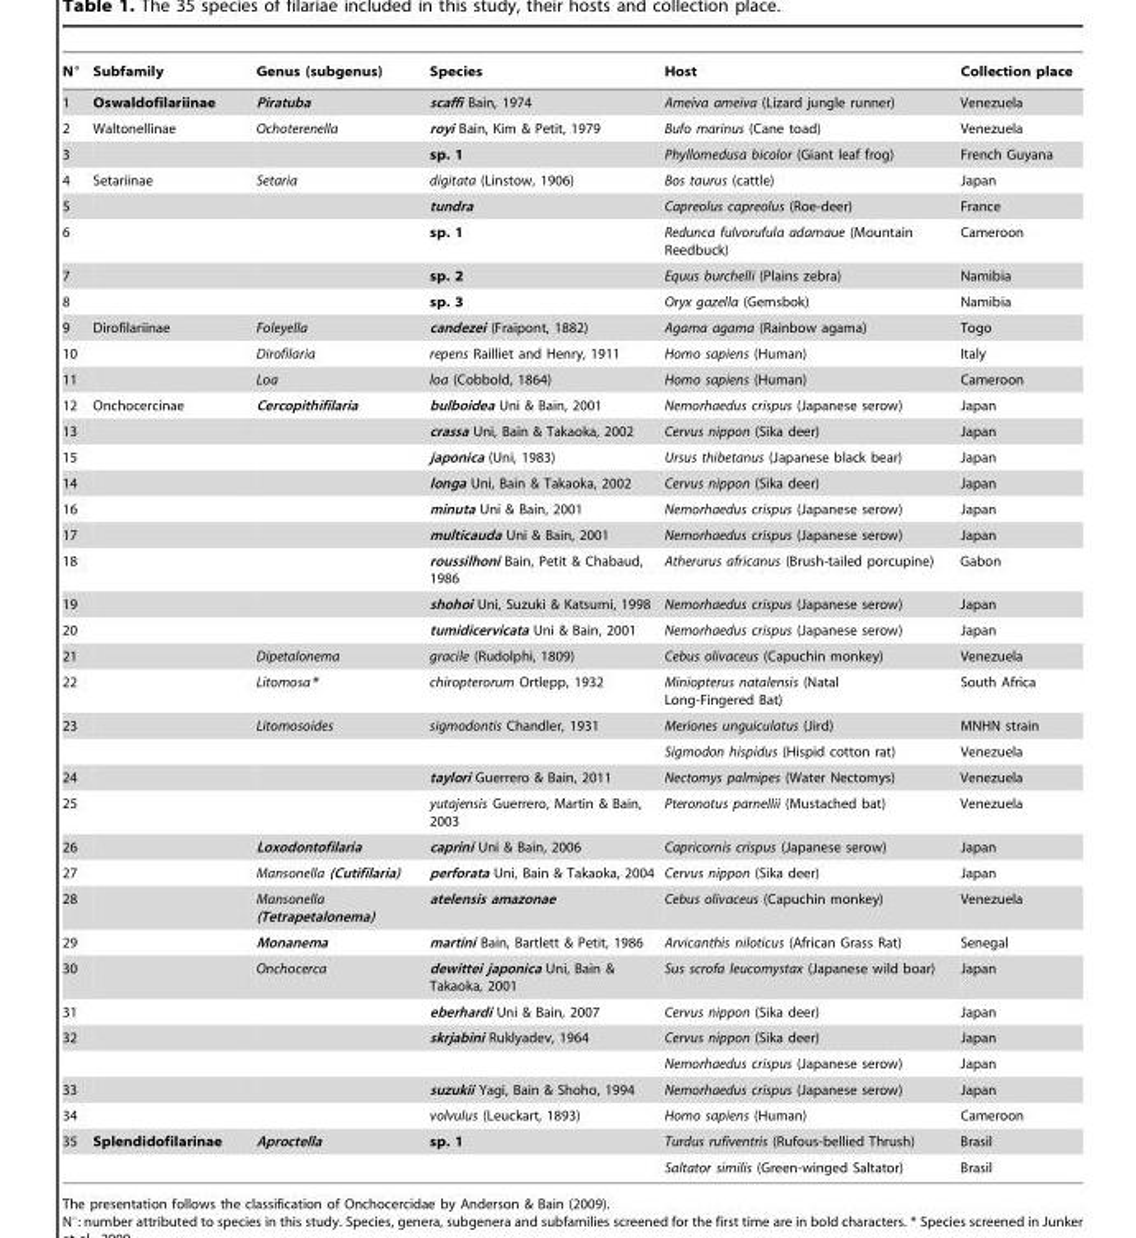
<table><thead><tr><td>N°</td><td>Subfamily</td><td>Genus (subgenus)</td><td>Species</td><td>Host</td><td>Collection place</td></tr></thead><tbody><tr><td>1</td><td>Oswaldofilariinae</td><td>Piratuba</td><td>scaffi Bain, 1974</td><td>Ameiva ameiva (Lizard jungle runner)</td><td>Venezuela</td></tr><tr><td>2</td><td>Waltonellinae</td><td>Ochoterenella</td><td>royi Bain, Kim &amp; Petit, 1979</td><td>Bufo marinus (Cane toad)</td><td>Venezuela</td></tr><tr><td>3</td><td></td><td></td><td>sp. 1</td><td>Phyllomedusa bicolor (Giant leaf frog)</td><td>French Guyana</td></tr><tr><td>4</td><td>Setariinae</td><td>Setaria</td><td>digitata (Linstow, 1906)</td><td>Bos taurus (cattle)</td><td>Japan</td></tr><tr><td>5</td><td></td><td></td><td>tundra</td><td>Capreolus capreolus (Roe-deer)</td><td>France</td></tr><tr><td>6</td><td></td><td></td><td>sp. 1</td><td>Redunca fulvorufula adamaue (Mountain Reedbuck)</td><td>Cameroon</td></tr><tr><td>7</td><td></td><td></td><td>sp. 2</td><td>Equus burchelli (Plains zebra)</td><td>Namibia</td></tr><tr><td>8</td><td></td><td></td><td>sp. 3</td><td>Oryx gazella (Gemsbok)</td><td>Namibia</td></tr><tr><td>9</td><td>Dirofilariinae</td><td>Foleyella</td><td>candezei (Fraipont, 1882)</td><td>Agama agama (Rainbow agama)</td><td>Togo</td></tr><tr><td>10</td><td></td><td>Dirofilaria</td><td>repens Railliet and Henry, 1911</td><td>Homo sapiens (Human)</td><td>Italy</td></tr><tr><td>11</td><td></td><td>Loa</td><td>loa (Cobbold, 1864)</td><td>Homo sapiens (Human)</td><td>Cameroon</td></tr><tr><td>12</td><td>Onchocercinae</td><td>Cercopithifilaria</td><td>bulboidea Uni &amp; Bain, 2001</td><td>Nemorhaedus crispus (Japanese serow)</td><td>Japan</td></tr><tr><td>13</td><td></td><td></td><td>crassa Uni, Bain &amp; Takaoka, 2002</td><td>Cervus nippon (Sika deer)</td><td>Japan</td></tr><tr><td>15</td><td></td><td></td><td>japonica (Uni, 1983)</td><td>Ursus thibetanus (Japanese black bear)</td><td>Japan</td></tr><tr><td>14</td><td></td><td></td><td>longa Uni, Bain &amp; Takaoka, 2002</td><td>Cervus nippon (Sika deer)</td><td>Japan</td></tr><tr><td>16</td><td></td><td></td><td>minuta Uni &amp; Bain, 2001</td><td>Nemorhaedus crispus (Japanese serow)</td><td>Japan</td></tr><tr><td>17</td><td></td><td></td><td>multicauda Uni &amp; Bain, 2001</td><td>Nemorhaedus crispus (Japanese serow)</td><td>Japan</td></tr><tr><td>18</td><td></td><td></td><td>roussilhoni Bain, Petit &amp; Chabaud, 1986</td><td>Atherurus africanus (Brush-tailed porcupine)</td><td>Gabon</td></tr><tr><td>19</td><td></td><td></td><td>shohoi Uni, Suzuki &amp; Katsumi, 1998</td><td>Nemorhaedus crispus (Japanese serow)</td><td>Japan</td></tr><tr><td>20</td><td></td><td></td><td>tumidicervicata Uni &amp; Bain, 2001</td><td>Nemorhaedus crispus (Japanese serow)</td><td>Japan</td></tr><tr><td>21</td><td></td><td>Dipetalonema</td><td>gracile (Rudolphi, 1809)</td><td>Cebus olivaceus (Capuchin monkey)</td><td>Venezuela</td></tr><tr><td>22</td><td></td><td>Litomosa*</td><td>chiropterorum Ortlepp, 1932</td><td>Miniopterus natalensis (Natal Long-Fingered Bat)</td><td>South Africa</td></tr><tr><td rowspan="2">23</td><td></td><td>Litomosoides</td><td>sigmodontis Chandler, 1931</td><td>Meriones unguiculatus (Jird)</td><td>MNHN strain</td></tr><tr><td></td><td></td><td></td><td>Sigmodon hispidus (Hispid cotton rat)</td><td>Venezuela</td></tr><tr><td>24</td><td></td><td></td><td>taylori Guerrero &amp; Bain, 2011</td><td>Nectomys palmipes (Water Nectomys)</td><td>Venezuela</td></tr><tr><td>25</td><td></td><td></td><td>yutajensis Guerrero, Martin &amp; Bain, 2003</td><td>Pteronotus parnellii (Mustached bat)</td><td>Venezuela</td></tr><tr><td>26</td><td></td><td>Loxodontofilaria</td><td>caprini Uni &amp; Bain, 2006</td><td>Capricornis crispus (Japanese serow)</td><td>Japan</td></tr><tr><td>27</td><td></td><td>Mansonella (Cutifilaria)</td><td>perforata Uni, Bain &amp; Takaoka, 2004</td><td>Cervus nippon (Sika deer)</td><td>Japan</td></tr><tr><td>28</td><td></td><td>Mansonella (Tetrapetalonema)</td><td>atelensis amazonae</td><td>Cebus olivaceus (Capuchin monkey)</td><td>Venezuela</td></tr><tr><td>29</td><td></td><td>Monanema</td><td>martini Bain, Bartlett &amp; Petit, 1986</td><td>Arvicanthis niloticus (African Grass Rat)</td><td>Senegal</td></tr><tr><td>30</td><td></td><td>Onchocerca</td><td>dewittei japonica Uni, Bain &amp; Takaoka, 2001</td><td>Sus scrofa leucomystax (Japanese wild boar)</td><td>Japan</td></tr><tr><td>31</td><td></td><td></td><td>eberhardi Uni &amp; Bain, 2007</td><td>Cervus nippon (Sika deer)</td><td>Japan</td></tr><tr><td rowspan="2">32</td><td></td><td></td><td>skrjabini Ruklyadev, 1964</td><td>Cervus nippon (Sika deer)</td><td>Japan</td></tr><tr><td></td><td></td><td></td><td>Nemorhaedus crispus (Japanese serow)</td><td>Japan</td></tr><tr><td>33</td><td></td><td></td><td>suzukii Yagi, Bain &amp; Shoho, 1994</td><td>Nemorhaedus crispus (Japanese serow)</td><td>Japan</td></tr><tr><td>34</td><td></td><td></td><td>volvulus (Leuckart, 1893)</td><td>Homo sapiens (Human)</td><td>Cameroon</td></tr><tr><td rowspan="2">35</td><td>Splendidofilarinae</td><td>Aproctella</td><td>sp. 1</td><td>Turdus rufiventris (Rufous-bellied Thrush)</td><td>Brasil</td></tr><tr><td></td><td></td><td></td><td>Saltator similis (Green-winged Saltator)</td><td>Brasil</td></tr></tbody></table>